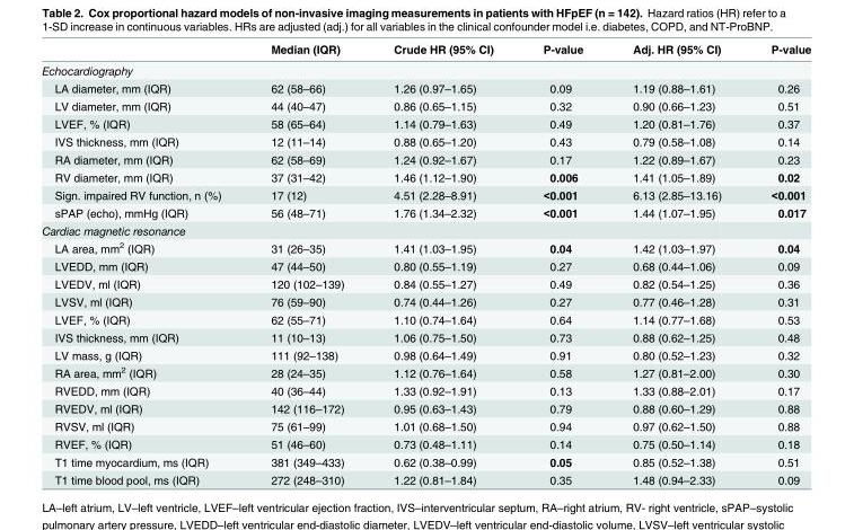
<table><thead><tr><td></td><td>Median (IQR)</td><td>Crude HR (95% CI)</td><td>P-value</td><td>Adj. HR (95% CI)</td><td>P-value</td></tr></thead><tbody><tr><td colspan="6">Echocardiography</td></tr><tr><td>LA diameter, mm (IQR)</td><td>62 (58–66)</td><td>1.26 (0.97–1.65)</td><td>0.09</td><td>1.19 (0.88–1.61)</td><td>0.26</td></tr><tr><td>LV diameter, mm (IQR)</td><td>44 (40–47)</td><td>0.86 (0.65–1.15)</td><td>0.32</td><td>0.90 (0.66–1.23)</td><td>0.51</td></tr><tr><td>LVEF, % (IQR)</td><td>58 (65–64)</td><td>1.14 (0.79–1.63)</td><td>0.49</td><td>1.20 (0.81–1.76)</td><td>0.37</td></tr><tr><td>IVS thickness, mm (IQR)</td><td>12 (11–14)</td><td>0.88 (0.65–1.20)</td><td>0.43</td><td>0.79 (0.58–1.08)</td><td>0.14</td></tr><tr><td>RA diameter, mm (IQR)</td><td>62 (58–69)</td><td>1.24 (0.92–1.67)</td><td>0.17</td><td>1.22 (0.89–1.67)</td><td>0.23</td></tr><tr><td>RV diameter, mm (IQR)</td><td>37 (31–42)</td><td>1.46 (1.12–1.90)</td><td>0.006</td><td>1.41 (1.05–1.89)</td><td>0.02</td></tr><tr><td>Sign. impaired RV function, n (%)</td><td>17 (12)</td><td>4.51 (2.28–8.91)</td><td>&lt;0.001</td><td>6.13 (2.85–13.16)</td><td>&lt;0.001</td></tr><tr><td>sPAP (echo), mmHg (IQR)</td><td>56 (48–71)</td><td>1.76 (1.34–2.32)</td><td>&lt;0.001</td><td>1.44 (1.07–1.95)</td><td>0.017</td></tr><tr><td colspan="6">Cardiac magnetic resonance</td></tr><tr><td>LA area, mm<sup>2</sup> (IQR)</td><td>31 (26–35)</td><td>1.41 (1.03–1.95)</td><td>0.04</td><td>1.42 (1.03–1.97)</td><td>0.04</td></tr><tr><td>LVEDD, mm (IQR)</td><td>47 (44–50)</td><td>0.80 (0.55–1.19)</td><td>0.27</td><td>0.68 (0.44–1.06)</td><td>0.09</td></tr><tr><td>LVEDV, ml (IQR)</td><td>120 (102–139)</td><td>0.84 (0.55–1.27)</td><td>0.49</td><td>0.82 (0.54–1.25)</td><td>0.36</td></tr><tr><td>LVSV, ml (IQR)</td><td>76 (59–90)</td><td>0.74 (0.44–1.26)</td><td>0.27</td><td>0.77 (0.46–1.28)</td><td>0.31</td></tr><tr><td>LVEF, % (IQR)</td><td>62 (55–71)</td><td>1.10 (0.74–1.64)</td><td>0.64</td><td>1.14 (0.77–1.68)</td><td>0.53</td></tr><tr><td>IVS thickness, mm (IQR)</td><td>11 (10–13)</td><td>1.06 (0.75–1.50)</td><td>0.73</td><td>0.88 (0.62–1.25)</td><td>0.48</td></tr><tr><td>LV mass, g (IQR)</td><td>111 (92–138)</td><td>0.98 (0.64–1.49)</td><td>0.91</td><td>0.80 (0.52–1.23)</td><td>0.32</td></tr><tr><td>RA area, mm<sup>2</sup> (IQR)</td><td>28 (24–35)</td><td>1.12 (0.76–1.64)</td><td>0.58</td><td>1.27 (0.81–2.00)</td><td>0.30</td></tr><tr><td>RVEDD, mm (IQR)</td><td>40 (36–44)</td><td>1.33 (0.92–1.91)</td><td>0.13</td><td>1.33 (0.88–2.01)</td><td>0.17</td></tr><tr><td>RVEDV, ml (IQR)</td><td>142 (116–172)</td><td>0.95 (0.63–1.43)</td><td>0.79</td><td>0.88 (0.60–1.29)</td><td>0.88</td></tr><tr><td>RVSV, ml (IQR)</td><td>75 (61–99)</td><td>1.01 (0.68–1.50)</td><td>0.94</td><td>0.97 (0.62–1.50)</td><td>0.88</td></tr><tr><td>RVEF, % (IQR)</td><td>51 (46–60)</td><td>0.73 (0.48–1.11)</td><td>0.14</td><td>0.75 (0.50–1.14)</td><td>0.18</td></tr><tr><td>T1 time myocardium, ms (IQR)</td><td>381 (349–433)</td><td>0.62 (0.38–0.99)</td><td>0.05</td><td>0.85 (0.52–1.38)</td><td>0.51</td></tr><tr><td>T1 time blood pool, ms (IQR)</td><td>272 (248–310)</td><td>1.22 (0.81–1.84)</td><td>0.35</td><td>1.48 (0.94–2.33)</td><td>0.09</td></tr></tbody></table>